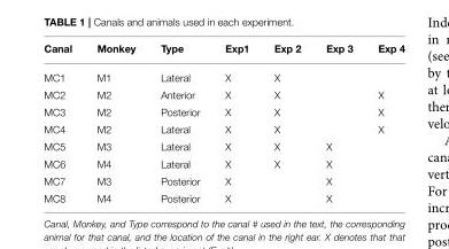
<table><thead><tr><td>Canal</td><td>Monkey</td><td>Type</td><td>Exp1</td><td>Exp 2</td><td>Exp 3</td><td>Exp 4</td></tr></thead><tbody><tr><td>MC1</td><td>M1</td><td>Lateral</td><td>X</td><td>X</td><td></td><td></td></tr><tr><td>MC2</td><td>M2</td><td>Anterior</td><td>X</td><td>X</td><td></td><td>X</td></tr><tr><td>MC3</td><td>M2</td><td>Posterior</td><td>X</td><td>X</td><td></td><td>X</td></tr><tr><td>MC4</td><td>M2</td><td>Lateral</td><td>X</td><td>X</td><td></td><td>X</td></tr><tr><td>MC5</td><td>M3</td><td>Lateral</td><td>X</td><td>X</td><td>X</td><td></td></tr><tr><td>MC6</td><td>M4</td><td>Lateral</td><td>X</td><td>X</td><td>X</td><td></td></tr><tr><td>MC7</td><td>M3</td><td>Posterior</td><td>X</td><td></td><td>X</td><td></td></tr><tr><td>MC8</td><td>M4</td><td>Posterior</td><td>X</td><td></td><td>X</td><td></td></tr></tbody></table>